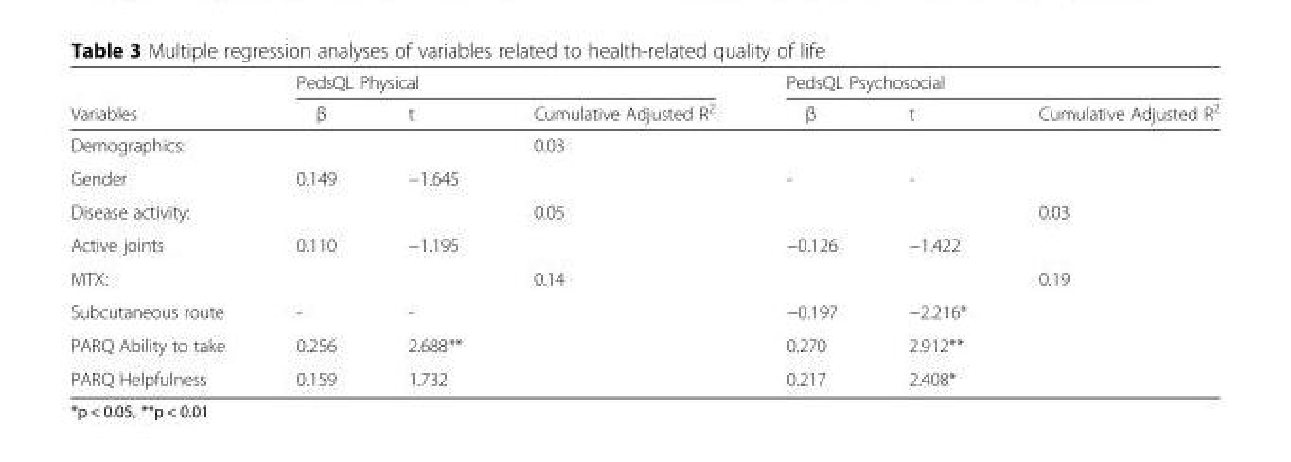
<table><thead><tr><td rowspan="2">Variables</td><td colspan="3">PedsQL Physical</td><td colspan="3">PedsQL Psychosocial</td></tr><tr><td>β</td><td>t</td><td>Cumulative Adjusted R<sup>2</sup></td><td>β</td><td>t</td><td>Cumulative Adjusted R<sup>2</sup></td></tr></thead><tbody><tr><td>Demographics:</td><td></td><td></td><td>0.03</td><td></td><td></td><td></td></tr><tr><td>Gender</td><td>0.149</td><td>−1.645</td><td></td><td>-</td><td>-</td><td></td></tr><tr><td>Disease activity:</td><td></td><td></td><td>0.05</td><td></td><td></td><td>0.03</td></tr><tr><td>Active joints</td><td>0.110</td><td>−1.195</td><td></td><td>−0.126</td><td>−1.422</td><td></td></tr><tr><td>MTX:</td><td></td><td></td><td>0.14</td><td></td><td></td><td>0.19</td></tr><tr><td>Subcutaneous route</td><td>-</td><td>-</td><td></td><td>−0.197</td><td>−2.216*</td><td></td></tr><tr><td>PARQ Ability to take</td><td>0.256</td><td>2.688**</td><td></td><td>0.270</td><td>2.912**</td><td></td></tr><tr><td>PARQ Helpfulness</td><td>0.159</td><td>1.732</td><td></td><td>0.217</td><td>2.408*</td><td></td></tr></tbody></table>